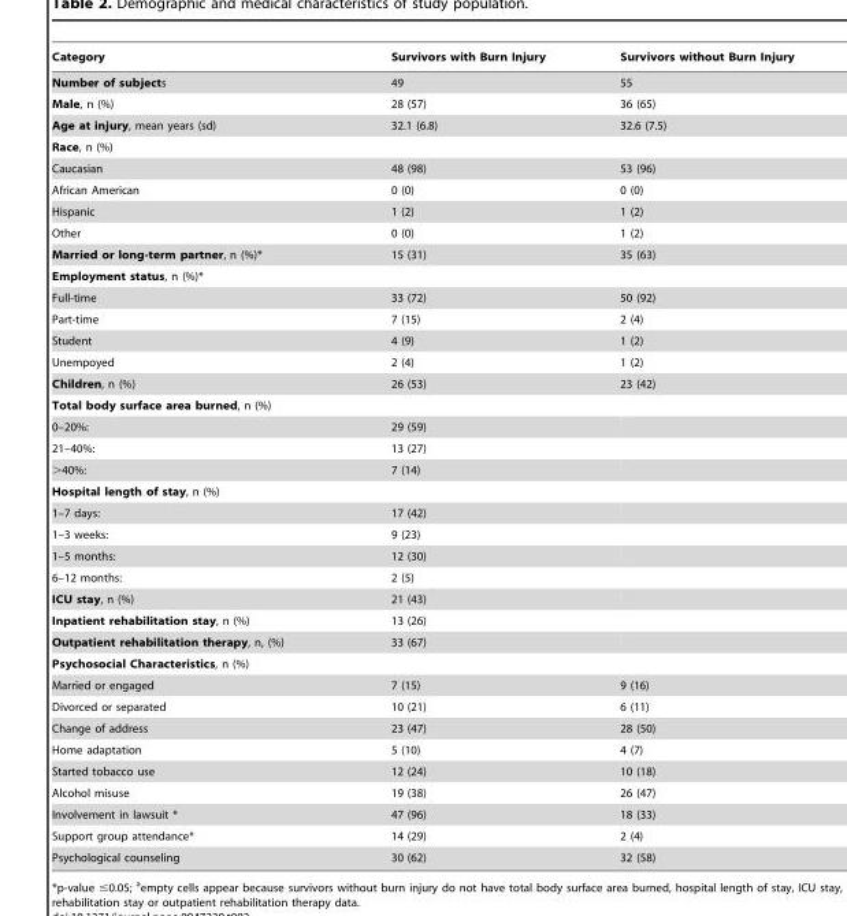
<table><thead><tr><td>Category</td><td>Survivors with Burn Injury</td><td>Survivors without Burn Injury</td></tr></thead><tbody><tr><td>Number of subjects</td><td>49</td><td>55</td></tr><tr><td>Male, n (%)</td><td>28 (57)</td><td>36 (65)</td></tr><tr><td>Age at injury, mean years (sd)</td><td>32.1 (6.8)</td><td>32.6 (7.5)</td></tr><tr><td colspan="3">Race, n (%)</td></tr><tr><td>Caucasian</td><td>48 (98)</td><td>53 (96)</td></tr><tr><td>African American</td><td>0 (0)</td><td>0 (0)</td></tr><tr><td>Hispanic</td><td>1 (2)</td><td>1 (2)</td></tr><tr><td>Other</td><td>0 (0)</td><td>1 (2)</td></tr><tr><td>Married or long-term partner, n (%)*</td><td>15 (31)</td><td>35 (63)</td></tr><tr><td colspan="3">Employment status, n (%)*</td></tr><tr><td>Full-time</td><td>33 (72)</td><td>50 (92)</td></tr><tr><td>Part-time</td><td>7 (15)</td><td>2 (4)</td></tr><tr><td>Student</td><td>4 (9)</td><td>1 (2)</td></tr><tr><td>Unempoyed</td><td>2 (4)</td><td>1 (2)</td></tr><tr><td>Children, n (%)</td><td>26 (53)</td><td>23 (42)</td></tr><tr><td colspan="3">Total body surface area burned, n (%)</td></tr><tr><td>0–20%:</td><td>29 (59)</td><td></td></tr><tr><td>21–40%:</td><td>13 (27)</td><td></td></tr><tr><td>&gt;40%:</td><td>7 (14)</td><td></td></tr><tr><td colspan="3">Hospital length of stay, n (%)</td></tr><tr><td>1–7 days:</td><td>17 (42)</td><td></td></tr><tr><td>1–3 weeks:</td><td>9 (23)</td><td></td></tr><tr><td>1–5 months:</td><td>12 (30)</td><td></td></tr><tr><td>6–12 months:</td><td>2 (5)</td><td></td></tr><tr><td>ICU stay, n (%)</td><td>21 (43)</td><td></td></tr><tr><td>Inpatient rehabilitation stay, n (%)</td><td>13 (26)</td><td></td></tr><tr><td>Outpatient rehabilitation therapy, n, (%)</td><td>33 (67)</td><td></td></tr><tr><td colspan="3">Psychosocial Characteristics, n (%)</td></tr><tr><td>Married or engaged</td><td>7 (15)</td><td>9 (16)</td></tr><tr><td>Divorced or separated</td><td>10 (21)</td><td>6 (11)</td></tr><tr><td>Change of address</td><td>23 (47)</td><td>28 (50)</td></tr><tr><td>Home adaptation</td><td>5 (10)</td><td>4 (7)</td></tr><tr><td>Started tobacco use</td><td>12 (24)</td><td>10 (18)</td></tr><tr><td>Alcohol misuse</td><td>19 (38)</td><td>26 (47)</td></tr><tr><td>Involvement in lawsuit *</td><td>47 (96)</td><td>18 (33)</td></tr><tr><td>Support group attendance*</td><td>14 (29)</td><td>2 (4)</td></tr><tr><td>Psychological counseling</td><td>30 (62)</td><td>32 (58)</td></tr></tbody></table>